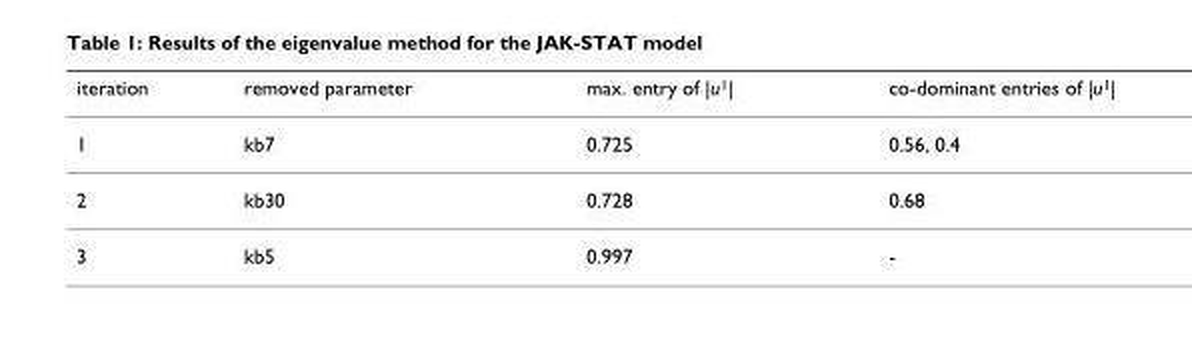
<table><thead><tr><td>iteration</td><td>removed parameter</td><td>max. entry of |u<sup>1</sup>|</td><td>co-dominant entries of |u<sup>1</sup>|</td></tr></thead><tbody><tr><td>1</td><td>kb7</td><td>0.725</td><td>0.56, 0.4</td></tr><tr><td>2</td><td>kb30</td><td>0.728</td><td>0.68</td></tr><tr><td>3</td><td>kb5</td><td>0.997</td><td>-</td></tr></tbody></table>